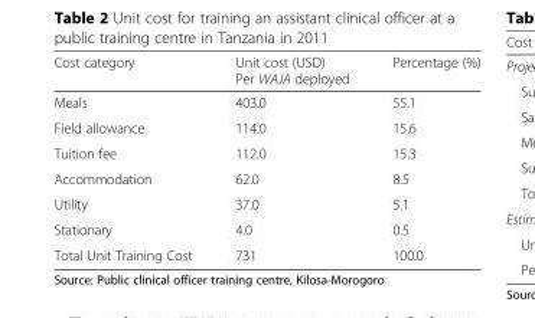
<table><thead><tr><td>Cost category</td><td>Unit cost (USD) Per WAJA deployed</td><td>Percentage (%)</td></tr></thead><tbody><tr><td>Meals</td><td>403.0</td><td>55.1</td></tr><tr><td>Field allowance</td><td>114.0</td><td>15.6</td></tr><tr><td>Tuition fee</td><td>112.0</td><td>15.3</td></tr><tr><td>Accommodation</td><td>62.0</td><td>8.5</td></tr><tr><td>Utility</td><td>37.0</td><td>5.1</td></tr><tr><td>Stationary</td><td>4.0</td><td>0.5</td></tr><tr><td>Total Unit Training Cost</td><td>731</td><td>100.0</td></tr></tbody></table>